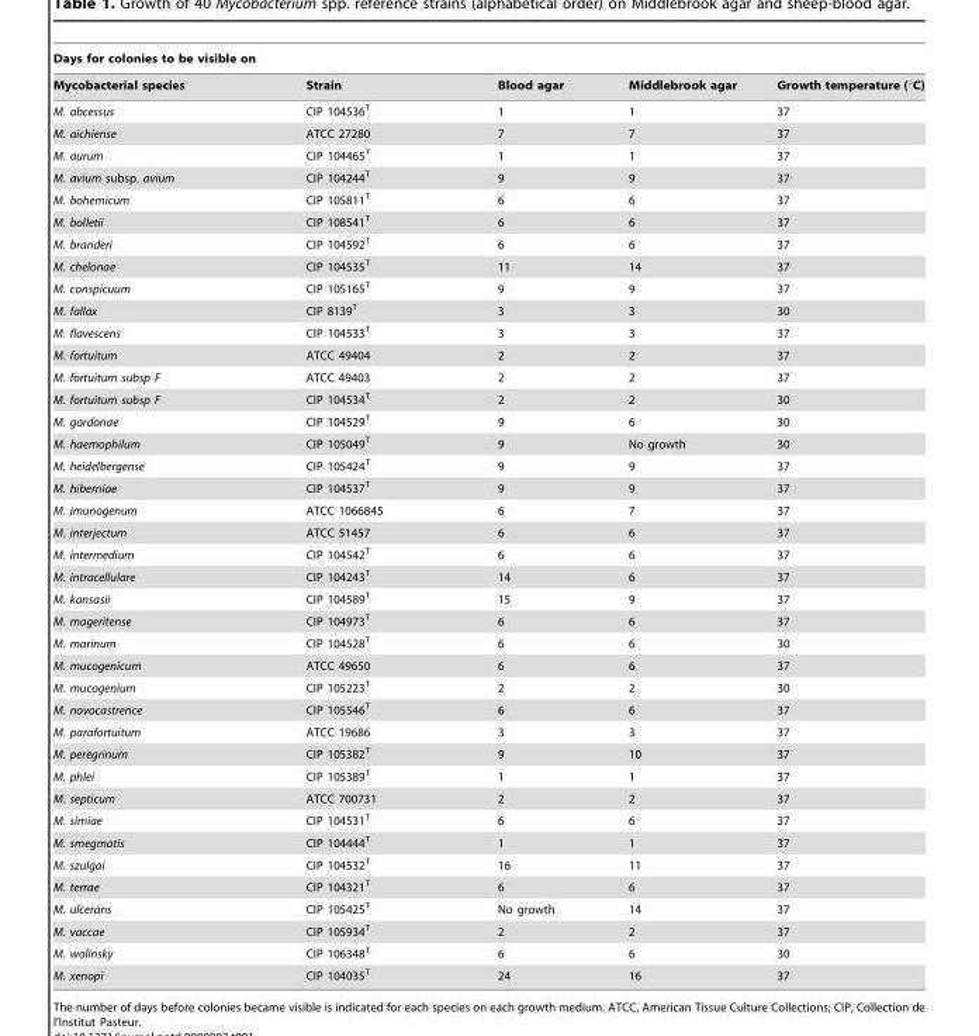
<table><thead><tr><td colspan="5">Days for colonies to be visible on</td></tr><tr><td>Mycobacterial species</td><td>Strain</td><td>Blood agar</td><td>Middlebrook agar</td><td>Growth temperature (°C)</td></tr></thead><tbody><tr><td>M. abcessus</td><td>CIP 104536<sup>T</sup></td><td>1</td><td>1</td><td>37</td></tr><tr><td>M. aichiense</td><td>ATCC 27280</td><td>7</td><td>7</td><td>37</td></tr><tr><td>M. aurum</td><td>CIP 104465<sup>T</sup></td><td>1</td><td>1</td><td>37</td></tr><tr><td>M. avium subsp. avium</td><td>CIP 104244<sup>T</sup></td><td>9</td><td>9</td><td>37</td></tr><tr><td>M. bohemicum</td><td>CIP 105811<sup>T</sup></td><td>6</td><td>6</td><td>37</td></tr><tr><td>M. bolletii</td><td>CIP 108541<sup>T</sup></td><td>6</td><td>6</td><td>37</td></tr><tr><td>M. branderi</td><td>CIP 104592<sup>T</sup></td><td>6</td><td>6</td><td>37</td></tr><tr><td>M. chelonae</td><td>CIP 104535<sup>T</sup></td><td>11</td><td>14</td><td>37</td></tr><tr><td>M. conspicuum</td><td>CIP 105165<sup>T</sup></td><td>9</td><td>9</td><td>37</td></tr><tr><td>M. fallax</td><td>CIP 8139<sup>T</sup></td><td>3</td><td>3</td><td>30</td></tr><tr><td>M. flavescens</td><td>CIP 104533<sup>T</sup></td><td>3</td><td>3</td><td>37</td></tr><tr><td>M. fortuitum</td><td>ATCC 49404</td><td>2</td><td>2</td><td>37</td></tr><tr><td>M. fortuitum subsp F</td><td>ATCC 49403</td><td>2</td><td>2</td><td>37</td></tr><tr><td>M. fortuitum subsp F</td><td>CIP 104534<sup>T</sup></td><td>2</td><td>2</td><td>30</td></tr><tr><td>M. gordonae</td><td>CIP 104529<sup>T</sup></td><td>9</td><td>6</td><td>30</td></tr><tr><td>M. haemophilum</td><td>CIP 105049<sup>T</sup></td><td>9</td><td>No growth</td><td>30</td></tr><tr><td>M. heidelbergense</td><td>CIP 105424<sup>T</sup></td><td>9</td><td>9</td><td>37</td></tr><tr><td>M. hiberniae</td><td>CIP 104537<sup>T</sup></td><td>9</td><td>9</td><td>37</td></tr><tr><td>M. imunogenum</td><td>ATCC 1066845</td><td>6</td><td>7</td><td>37</td></tr><tr><td>M. interjectum</td><td>ATCC 51457</td><td>6</td><td>6</td><td>37</td></tr><tr><td>M. intermedium</td><td>CIP 104542<sup>T</sup></td><td>6</td><td>6</td><td>37</td></tr><tr><td>M. intracellulare</td><td>CIP 104243<sup>T</sup></td><td>14</td><td>6</td><td>37</td></tr><tr><td>M. kansasii</td><td>CIP 104589<sup>T</sup></td><td>15</td><td>9</td><td>37</td></tr><tr><td>M. mageritense</td><td>CIP 104973<sup>T</sup></td><td>6</td><td>6</td><td>37</td></tr><tr><td>M. marinum</td><td>CIP 104528<sup>T</sup></td><td>6</td><td>6</td><td>30</td></tr><tr><td>M. mucogenicum</td><td>ATCC 49650</td><td>6</td><td>6</td><td>37</td></tr><tr><td>M. mucogenium</td><td>CIP 105223<sup>T</sup></td><td>2</td><td>2</td><td>30</td></tr><tr><td>M. novocastrence</td><td>CIP 105546<sup>T</sup></td><td>6</td><td>6</td><td>37</td></tr><tr><td>M. parafortuitum</td><td>ATCC 19686</td><td>3</td><td>3</td><td>37</td></tr><tr><td>M. peregrinum</td><td>CIP 105382<sup>T</sup></td><td>9</td><td>10</td><td>37</td></tr><tr><td>M. phlei</td><td>CIP 105389<sup>T</sup></td><td>1</td><td>1</td><td>37</td></tr><tr><td>M. septicum</td><td>ATCC 700731</td><td>2</td><td>2</td><td>37</td></tr><tr><td>M. simiae</td><td>CIP 104531<sup>T</sup></td><td>6</td><td>6</td><td>37</td></tr><tr><td>M. smegmatis</td><td>CIP 104444<sup>T</sup></td><td>1</td><td>1</td><td>37</td></tr><tr><td>M. szulgai</td><td>CIP 104532<sup>T</sup></td><td>16</td><td>11</td><td>37</td></tr><tr><td>M. terrae</td><td>CIP 104321<sup>T</sup></td><td>6</td><td>6</td><td>37</td></tr><tr><td>M. ulcerans</td><td>CIP 105425<sup>T</sup></td><td>No growth</td><td>14</td><td>37</td></tr><tr><td>M. vaccae</td><td>CIP 105934<sup>T</sup></td><td>2</td><td>2</td><td>37</td></tr><tr><td>M. wolinsky</td><td>CIP 106348<sup>T</sup></td><td>6</td><td>6</td><td>30</td></tr><tr><td>M. xenopi</td><td>CIP 104035<sup>T</sup></td><td>24</td><td>16</td><td>37</td></tr></tbody></table>